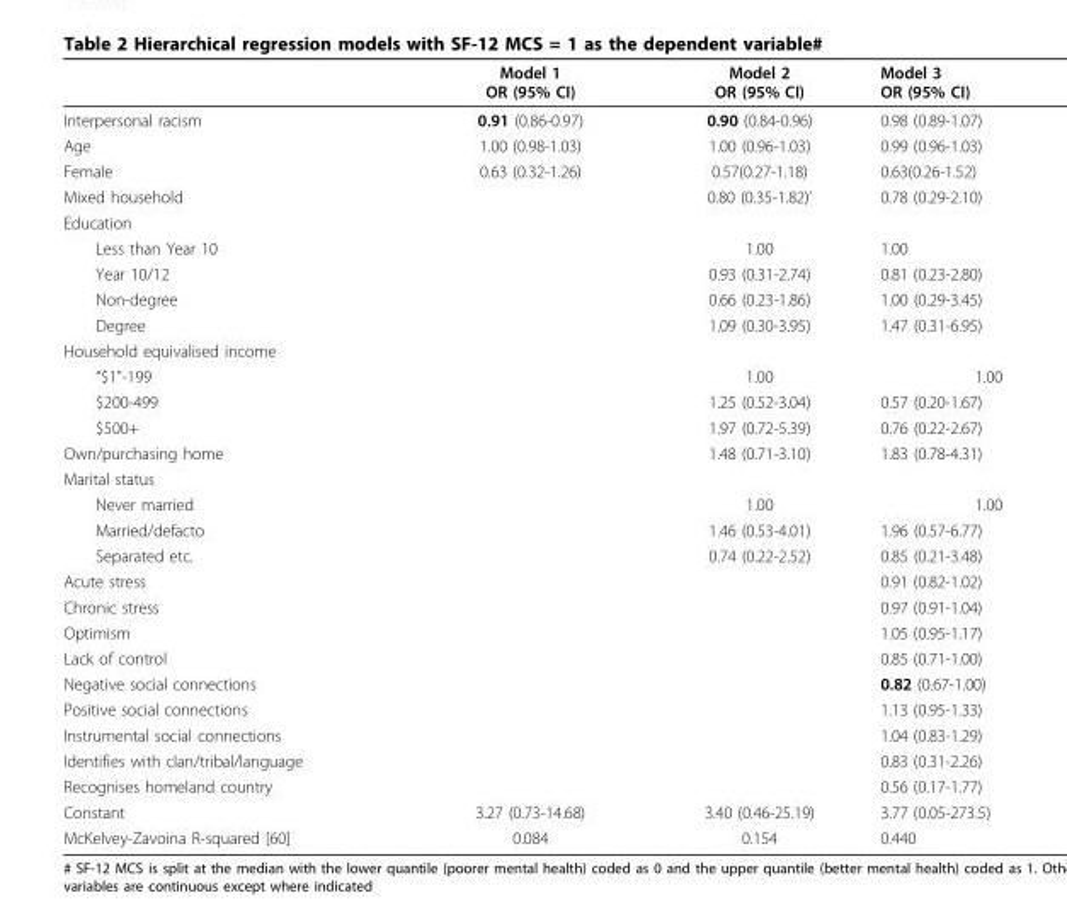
<table><thead><tr><td></td><td>Model 1 OR (95% CI)</td><td>Model 2 OR (95% CI)</td><td>Model 3 OR (95% CI)</td></tr></thead><tbody><tr><td>Interpersonal racism</td><td>0.91 (0.86-0.97)</td><td>0.90 (0.84-0.96)</td><td>0.98 (0.89-1.07)</td></tr><tr><td>Age</td><td>1.00 (0.98-1.03)</td><td>1.00 (0.96-1.03)</td><td>0.99 (0.96-1.03)</td></tr><tr><td>Female</td><td>0.63 (0.32-1.26)</td><td>0.57(0.27-1.18)</td><td>0.63(0.26-1.52)</td></tr><tr><td>Mixed household</td><td></td><td>0.80 (0.35-1.82)’</td><td>0.78 (0.29-2.10)</td></tr><tr><td colspan="4">Education</td></tr><tr><td>Less than Year 10</td><td></td><td>1.00</td><td>1.00</td></tr><tr><td>Year 10/12</td><td></td><td>0.93 (0.31-2.74)</td><td>0.81 (0.23-2.80)</td></tr><tr><td>Non-degree</td><td></td><td>0.66 (0.23-1.86)</td><td>1.00 (0.29-3.45)</td></tr><tr><td>Degree</td><td></td><td>1.09 (0.30-3.95)</td><td>1.47 (0.31-6.95)</td></tr><tr><td colspan="4">Household equivalised income</td></tr><tr><td>“$1&quot;-199</td><td></td><td>1.00</td><td>1.00</td></tr><tr><td>$200-499</td><td></td><td>1.25 (0.52-3.04)</td><td>0.57 (0.20-1.67)</td></tr><tr><td>$500+</td><td></td><td>1.97 (0.72-5.39)</td><td>0.76 (0.22-2.67)</td></tr><tr><td>Own/purchasing home</td><td></td><td>1.48 (0.71-3.10)</td><td>1.83 (0.78-4.31)</td></tr><tr><td colspan="4">Marital status</td></tr><tr><td>Never married</td><td></td><td>1.00</td><td>1.00</td></tr><tr><td>Married/defacto</td><td></td><td>1.46 (0.53-4.01)</td><td>1.96 (0.57-6.77)</td></tr><tr><td>Separated etc.</td><td></td><td>0.74 (0.22-2.52)</td><td>0.85 (0.21-3.48)</td></tr><tr><td>Acute stress</td><td></td><td></td><td>0.91 (0.82-1.02)</td></tr><tr><td>Chronic stress</td><td></td><td></td><td>0.97 (0.91-1.04)</td></tr><tr><td>Optimism</td><td></td><td></td><td>1.05 (0.95-1.17)</td></tr><tr><td>Lack of control</td><td></td><td></td><td>0.85 (0.71-1.00)</td></tr><tr><td>Negative social connections</td><td></td><td></td><td>0.82 (0.67-1.00)</td></tr><tr><td>Positive social connections</td><td></td><td></td><td>1.13 (0.95-1.33)</td></tr><tr><td>Instrumental social connections</td><td></td><td></td><td>1.04 (0.83-1.29)</td></tr><tr><td>Identifies with clan/tribal/language</td><td></td><td></td><td>0.83 (0.31-2.26)</td></tr><tr><td>Recognises homeland country</td><td></td><td></td><td>0.56 (0.17-1.77)</td></tr><tr><td>Constant</td><td>3.27 (0.73-14.68)</td><td>3.40 (0.46-25.19)</td><td>3.77 (0.05-273.5)</td></tr><tr><td>McKelvey-Zavoina R-squared [60]</td><td>0.084</td><td>0.154</td><td>0.440</td></tr></tbody></table>